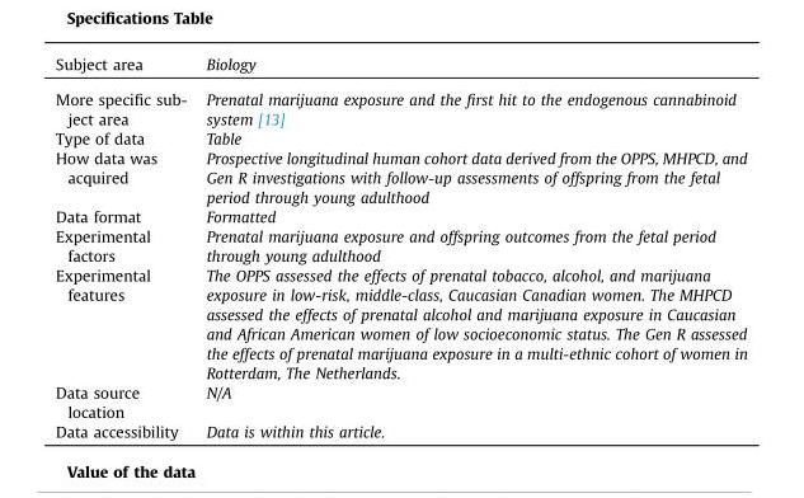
<table><thead><tr><td>Subject area</td><td>Biology</td></tr></thead><tbody><tr><td>More specific sub- ject area</td><td>Prenatal marijuana exposure and the first hit to the endogenous cannabinoid system [13]</td></tr><tr><td>Type of data</td><td>Table</td></tr><tr><td>How data was acquired</td><td>Prospective longitudinal human cohort data derived from the OPPS, MHPCD, and Gen R investigations with follow-up assessments of offspring from the fetal period through young adulthood</td></tr><tr><td>Data format</td><td>Formatted</td></tr><tr><td>Experimental factors</td><td>Prenatal marijuana exposure and offspring outcomes from the fetal period through young adulthood</td></tr><tr><td>Experimental features</td><td>The OPPS assessed the effects of prenatal tobacco, alcohol, and marijuana exposure in low-risk, middle-class, Caucasian Canadian women. The MHPCD assessed the effects of prenatal alcohol and marijuana exposure in Caucasian and African American women of low socioeconomic status. The Gen R assessed the effects of prenatal marijuana exposure in a multi-ethnic cohort of women in Rotterdam, The Netherlands.</td></tr><tr><td>Data source location</td><td>N/A</td></tr><tr><td>Data accessibility</td><td>Data is within this article.</td></tr></tbody></table>